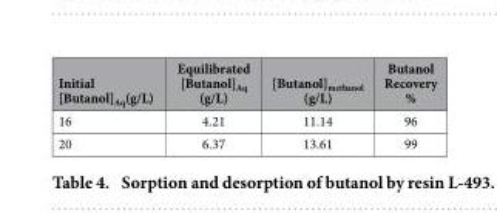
<table><thead><tr><td>Initial [Butanol]<sub>Aq</sub>(g/L)</td><td>Equilibrated [Butanol]<sub>Aq</sub> (g/L)</td><td>[Butanol]<sub>methanol</sub> (g/L)</td><td>Butanol Recovery %</td></tr></thead><tbody><tr><td>16</td><td>4.21</td><td>11.14</td><td>96</td></tr><tr><td>20</td><td>6.37</td><td>13.61</td><td>99</td></tr></tbody></table>